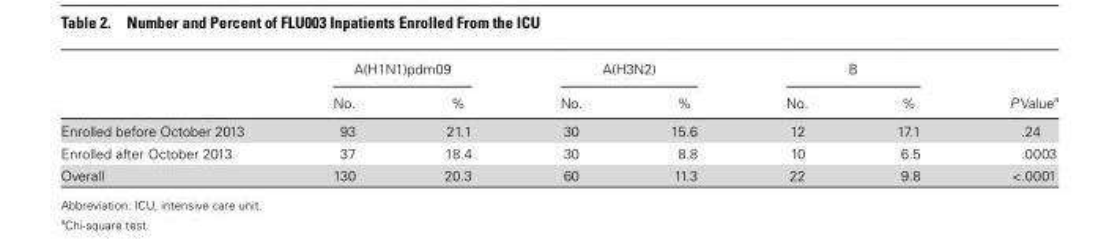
<table><thead><tr><td rowspan="2"></td><td colspan="2">A(H1N1)pdm09</td><td colspan="2">A(H3N2)</td><td colspan="2">B</td><td rowspan="2">P Value<sup>a</sup></td></tr><tr><td>No.</td><td>%</td><td>No.</td><td>%</td><td>No.</td><td>%</td></tr></thead><tbody><tr><td>Enrolled before October 2013</td><td>93</td><td>21.1</td><td>30</td><td>15.6</td><td>12</td><td>17.1</td><td>.24</td></tr><tr><td>Enrolled after October 2013</td><td>37</td><td>18.4</td><td>30</td><td>8.8</td><td>10</td><td>6.5</td><td>.0003</td></tr><tr><td>Overall</td><td>130</td><td>20.3</td><td>60</td><td>11.3</td><td>22</td><td>9.8</td><td>&lt;.0001</td></tr></tbody></table>